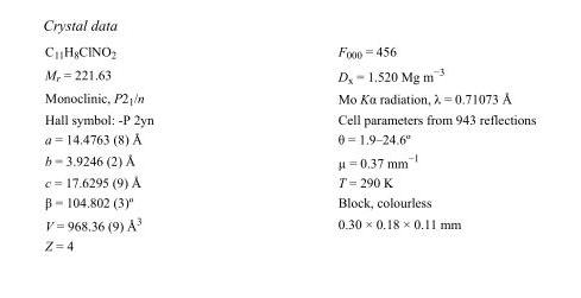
<table><tbody><tr><td>C<sub>11</sub>H<sub>8</sub>ClNO<sub>2</sub></td><td>F000 = 456</td></tr><tr><td>M<sub>r</sub> = 221.63</td><td>D<sub>x</sub> = 1.520 Mg m<sup>−3</sup></td></tr><tr><td>Monoclinic, P2<sub>1</sub>/n</td><td>Mo Kα radiation, λ = 0.71073 Å</td></tr><tr><td>Hall symbol: -P 2yn</td><td>Cell parameters from 943 reflections</td></tr><tr><td>a = 14.4763 (8) Å</td><td>θ = 1.9–24.6º</td></tr><tr><td>b = 3.9246 (2) Å</td><td>µ = 0.37 mm<sup>−1</sup></td></tr><tr><td>c = 17.6295 (9) Å</td><td>T = 290 K</td></tr><tr><td>β = 104.802 (3)º</td><td>Block, colourless</td></tr><tr><td>V = 968.36 (9) Å<sup>3</sup></td><td>0.30 × 0.18 × 0.11 mm</td></tr><tr><td>Z = 4</td><td></td></tr></tbody></table>